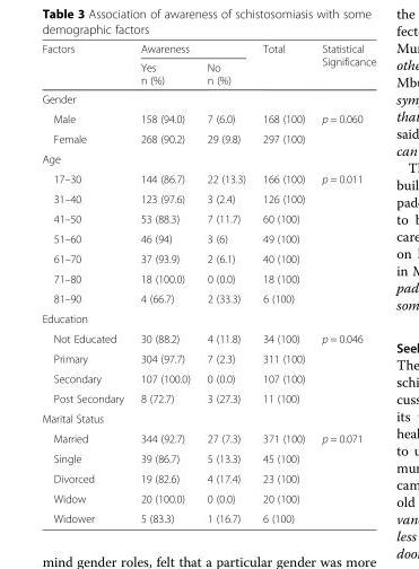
<table><thead><tr><td rowspan="2">Factors</td><td colspan="2">Awareness</td><td rowspan="2">Total</td><td rowspan="2">Statistical Significance</td></tr><tr><td>Yes n (%)</td><td>No n (%)</td></tr></thead><tbody><tr><td colspan="5">Gender</td></tr><tr><td>Male</td><td>158 (94.0)</td><td>7 (6.0)</td><td>168 (100)</td><td rowspan="2">p = 0.060</td></tr><tr><td>Female</td><td>268 (90.2)</td><td>29 (9.8)</td><td>297 (100)</td></tr><tr><td colspan="5">Age</td></tr><tr><td>17–30</td><td>144 (86.7)</td><td>22 (13.3)</td><td>166 (100)</td><td rowspan="7">p = 0.011</td></tr><tr><td>31–40</td><td>123 (97.6)</td><td>3 (2.4)</td><td>126 (100)</td></tr><tr><td>41–50</td><td>53 (88.3)</td><td>7 (11.7)</td><td>60 (100)</td></tr><tr><td>51–60</td><td>46 (94)</td><td>3 (6)</td><td>49 (100)</td></tr><tr><td>61–70</td><td>37 (93.9)</td><td>2 (6.1)</td><td>40 (100)</td></tr><tr><td>71–80</td><td>18 (100.0)</td><td>0 (0.0)</td><td>18 (100)</td></tr><tr><td>81–90</td><td>4 (66.7)</td><td>2 (33.3)</td><td>6 (100)</td></tr><tr><td colspan="5">Education</td></tr><tr><td>Not Educated</td><td>30 (88.2)</td><td>4 (11.8)</td><td>34 (100)</td><td rowspan="4">p = 0.046</td></tr><tr><td>Primary</td><td>304 (97.7)</td><td>7 (2.3)</td><td>311 (100)</td></tr><tr><td>Secondary</td><td>107 (100.0)</td><td>0 (0.0)</td><td>107 (100)</td></tr><tr><td>Post Secondary</td><td>8 (72.7)</td><td>3 (27.3)</td><td>11 (100)</td></tr><tr><td colspan="5">Marital Status</td></tr><tr><td>Married</td><td>344 (92.7)</td><td>27 (7.3)</td><td>371 (100)</td><td rowspan="5">p = 0.071</td></tr><tr><td>Single</td><td>39 (86.7)</td><td>5 (13.3)</td><td>45 (100)</td></tr><tr><td>Divorced</td><td>19 (82.6)</td><td>4 (17.4)</td><td>23 (100)</td></tr><tr><td>Widow</td><td>20 (100.0)</td><td>0 (0.0)</td><td>20 (100)</td></tr><tr><td>Widower</td><td>5 (83.3)</td><td>1 (16.7)</td><td>6 (100)</td></tr></tbody></table>